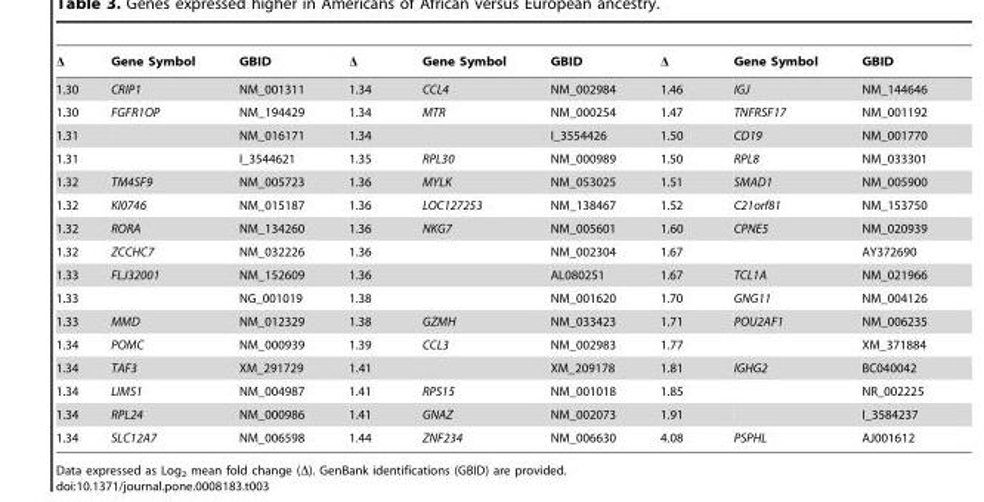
<table><thead><tr><td>Δ</td><td>Gene Symbol</td><td>GBID</td><td>Δ</td><td>Gene Symbol</td><td>GBID</td><td>Δ</td><td>Gene Symbol</td><td>GBID</td></tr></thead><tbody><tr><td>1.30</td><td>CRIP1</td><td>NM_001311</td><td>1.34</td><td>CCL4</td><td>NM_002984</td><td>1.46</td><td>IGJ</td><td>NM_144646</td></tr><tr><td>1.30</td><td>FGFR1OP</td><td>NM_194429</td><td>1.34</td><td>MTR</td><td>NM_000254</td><td>1.47</td><td>TNFRSF17</td><td>NM_001192</td></tr><tr><td>1.31</td><td></td><td>NM_016171</td><td>1.34</td><td></td><td>I_3554426</td><td>1.50</td><td>CD19</td><td>NM_001770</td></tr><tr><td>1.31</td><td></td><td>I_3544621</td><td>1.35</td><td>RPL30</td><td>NM_000989</td><td>1.50</td><td>RPL8</td><td>NM_033301</td></tr><tr><td>1.32</td><td>TM4SF9</td><td>NM_005723</td><td>1.36</td><td>MYLK</td><td>NM_053025</td><td>1.51</td><td>SMAD1</td><td>NM_005900</td></tr><tr><td>1.32</td><td>KI0746</td><td>NM_015187</td><td>1.36</td><td>LOC127253</td><td>NM_138467</td><td>1.52</td><td>C21orf81</td><td>NM_153750</td></tr><tr><td>1.32</td><td>RORA</td><td>NM_134260</td><td>1.36</td><td>NKG7</td><td>NM_005601</td><td>1.60</td><td>CPNE5</td><td>NM_020939</td></tr><tr><td>1.32</td><td>ZCCHC7</td><td>NM_032226</td><td>1.36</td><td></td><td>NM_002304</td><td>1.67</td><td></td><td>AY372690</td></tr><tr><td>1.33</td><td>FLJ32001</td><td>NM_152609</td><td>1.36</td><td></td><td>AL080251</td><td>1.67</td><td>TCL1A</td><td>NM_021966</td></tr><tr><td>1.33</td><td></td><td>NG_001019</td><td>1.38</td><td></td><td>NM_001620</td><td>1.70</td><td>GNG11</td><td>NM_004126</td></tr><tr><td>1.33</td><td>MMD</td><td>NM_012329</td><td>1.38</td><td>GZMH</td><td>NM_033423</td><td>1.71</td><td>POU2AF1</td><td>NM_006235</td></tr><tr><td>1.34</td><td>POMC</td><td>NM_000939</td><td>1.39</td><td>CCL3</td><td>NM_002983</td><td>1.77</td><td></td><td>XM_371884</td></tr><tr><td>1.34</td><td>TAF3</td><td>XM_291729</td><td>1.41</td><td></td><td>XM_209178</td><td>1.81</td><td>IGHG2</td><td>BC040042</td></tr><tr><td>1.34</td><td>LIMS1</td><td>NM_004987</td><td>1.41</td><td>RPS15</td><td>NM_001018</td><td>1.85</td><td></td><td>NR_002225</td></tr><tr><td>1.34</td><td>RPL24</td><td>NM_000986</td><td>1.41</td><td>GNAZ</td><td>NM_002073</td><td>1.91</td><td></td><td>I_3584237</td></tr><tr><td>1.34</td><td>SLC12A7</td><td>NM_006598</td><td>1.44</td><td>ZNF234</td><td>NM_006630</td><td>4.08</td><td>PSPHL</td><td>AJ001612</td></tr></tbody></table>